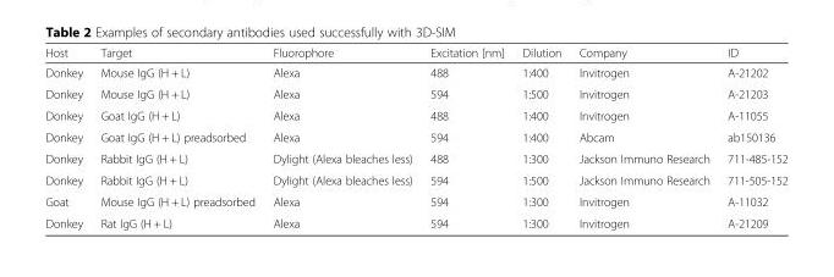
<table><thead><tr><td>Host</td><td>Target</td><td>Fluorophore</td><td>Excitation [nm]</td><td>Dilution</td><td>Company</td><td>ID</td></tr></thead><tbody><tr><td>Donkey</td><td>Mouse IgG (H + L)</td><td>Alexa</td><td>488</td><td>1:400</td><td>Invitrogen</td><td>A-21202</td></tr><tr><td>Donkey</td><td>Mouse IgG (H + L)</td><td>Alexa</td><td>594</td><td>1:500</td><td>Invitrogen</td><td>A-21203</td></tr><tr><td>Donkey</td><td>Goat IgG (H + L)</td><td>Alexa</td><td>488</td><td>1:400</td><td>Invitrogen</td><td>A-11055</td></tr><tr><td>Donkey</td><td>Goat IgG (H + L) preadsorbed</td><td>Alexa</td><td>594</td><td>1:400</td><td>Abcam</td><td>ab150136</td></tr><tr><td>Donkey</td><td>Rabbit IgG (H + L)</td><td>Dylight (Alexa bleaches less)</td><td>488</td><td>1:300</td><td>Jackson Immuno Research</td><td>711-485-152</td></tr><tr><td>Donkey</td><td>Rabbit IgG (H + L)</td><td>Dylight (Alexa bleaches less)</td><td>594</td><td>1:500</td><td>Jackson Immuno Research</td><td>711-505-152</td></tr><tr><td>Goat</td><td>Mouse IgG (H + L) preadsorbed</td><td>Alexa</td><td>594</td><td>1:300</td><td>Invitrogen</td><td>A-11032</td></tr><tr><td>Donkey</td><td>Rat IgG (H + L)</td><td>Alexa</td><td>594</td><td>1:300</td><td>Invitrogen</td><td>A-21209</td></tr></tbody></table>